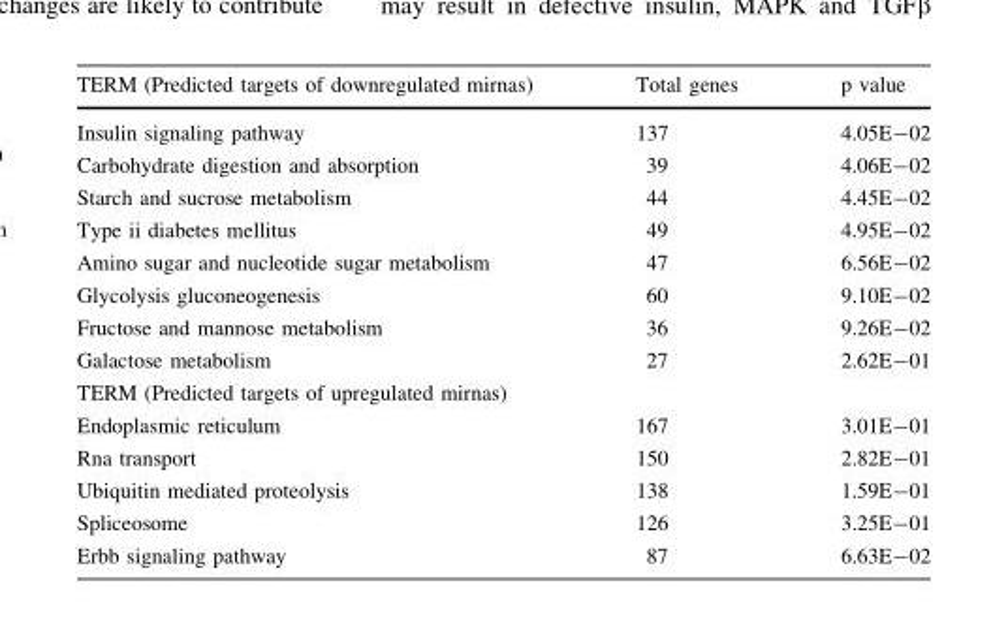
<table><thead><tr><td>TERM (Predicted targets of downregulated mirnas)</td><td>Total genes</td><td>p value</td></tr></thead><tbody><tr><td>Insulin signaling pathway</td><td>137</td><td>4.05E-02</td></tr><tr><td>Carbohydrate digestion and absorption</td><td>39</td><td>4.06E-02</td></tr><tr><td>Starch and sucrose metabolism</td><td>44</td><td>4.45E-02</td></tr><tr><td>Type ii diabetes mellitus</td><td>49</td><td>4.95E-02</td></tr><tr><td>Amino sugar and nucleotide sugar metabolism</td><td>47</td><td>6.56E-02</td></tr><tr><td>Glycolysis gluconeogenesis</td><td>60</td><td>9.10E-02</td></tr><tr><td>Fructose and mannose metabolism</td><td>36</td><td>9.26E-02</td></tr><tr><td>Galactose metabolism</td><td>27</td><td>2.62E-01</td></tr><tr><td colspan="3">TERM (Predicted targets of upregulated mirnas)</td></tr><tr><td>Endoplasmic reticulum</td><td>167</td><td>3.01E-01</td></tr><tr><td>Rna transport</td><td>150</td><td>2.82E-01</td></tr><tr><td>Ubiquitin mediated proteolysis</td><td>138</td><td>1.59E-01</td></tr><tr><td>Spliceosome</td><td>126</td><td>3.25E-01</td></tr><tr><td>Erbb signaling pathway</td><td>87</td><td>6.63E-02</td></tr></tbody></table>